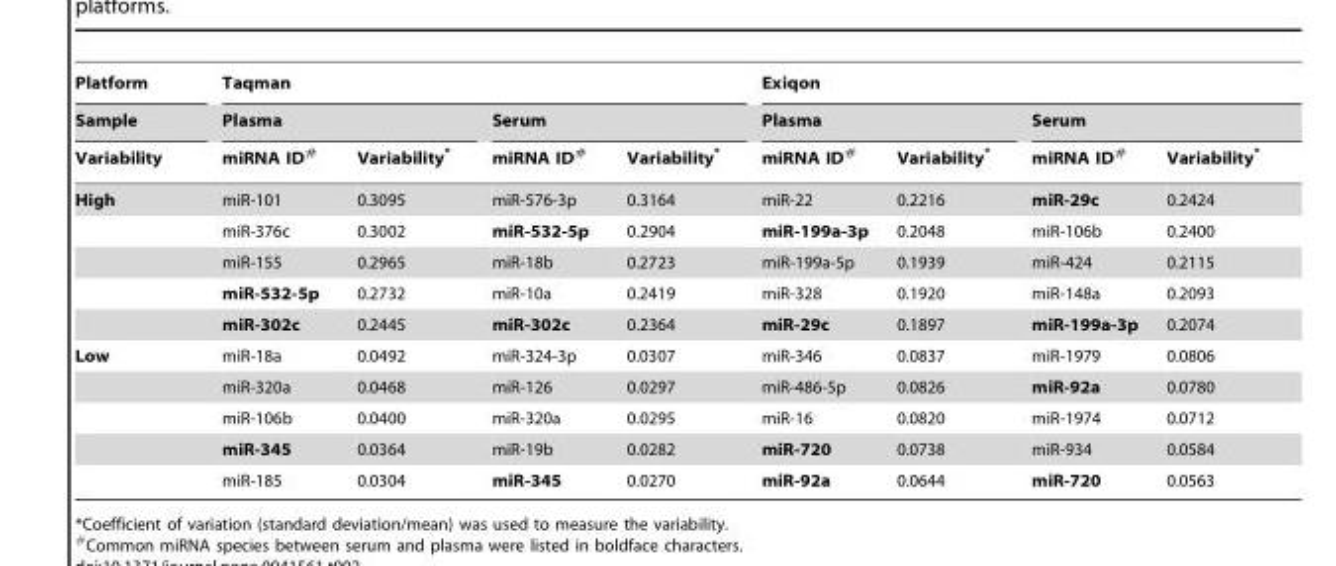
<table><thead><tr><td rowspan="3">Platform Sample Variability</td><td colspan="4">Taqman</td><td colspan="4">Exiqon</td></tr><tr><td colspan="2">Plasma</td><td colspan="2">Serum</td><td colspan="2">Plasma</td><td colspan="2">Serum</td></tr><tr><td>miRNA ID#</td><td>Variability*</td><td>miRNA ID#</td><td>Variability*</td><td>miRNA ID#</td><td>Variability*</td><td>miRNA ID#</td><td>Variability*</td></tr></thead><tbody><tr><td rowspan="5">High</td><td>miR-101</td><td>0.3095</td><td>miR-576-3p</td><td>0.3164</td><td>miR-22</td><td>0.2216</td><td>miR-29c</td><td>0.2424</td></tr><tr><td>miR-376c</td><td>0.3002</td><td>miR-532-5p</td><td>0.2904</td><td>miR-199a-3p</td><td>0.2048</td><td>miR-106b</td><td>0.2400</td></tr><tr><td>miR-155</td><td>0.2965</td><td>miR-18b</td><td>0.2723</td><td>miR-199a-5p</td><td>0.1939</td><td>miR-424</td><td>0.2115</td></tr><tr><td>miR-532-5p</td><td>0.2732</td><td>miR-10a</td><td>0.2419</td><td>miR-328</td><td>0.1920</td><td>miR-148a</td><td>0.2093</td></tr><tr><td>miR-302c</td><td>0.2445</td><td>miR-302c</td><td>0.2364</td><td>miR-29c</td><td>0.1897</td><td>miR-199a-3p</td><td>0.2074</td></tr><tr><td rowspan="5">Low</td><td>miR-18a</td><td>0.0492</td><td>miR-324-3p</td><td>0.0307</td><td>miR-346</td><td>0.0837</td><td>miR-1979</td><td>0.0806</td></tr><tr><td>miR-320a</td><td>0.0468</td><td>miR-126</td><td>0.0297</td><td>miR-486-5p</td><td>0.0826</td><td>miR-92a</td><td>0.0780</td></tr><tr><td>miR-106b</td><td>0.0400</td><td>miR-320a</td><td>0.0295</td><td>miR-16</td><td>0.0820</td><td>miR-1974</td><td>0.0712</td></tr><tr><td>miR-345</td><td>0.0364</td><td>miR-19b</td><td>0.0282</td><td>miR-720</td><td>0.0738</td><td>miR-934</td><td>0.0584</td></tr><tr><td>miR-185</td><td>0.0304</td><td>miR-345</td><td>0.0270</td><td>miR-92a</td><td>0.0644</td><td>miR-720</td><td>0.0563</td></tr></tbody></table>